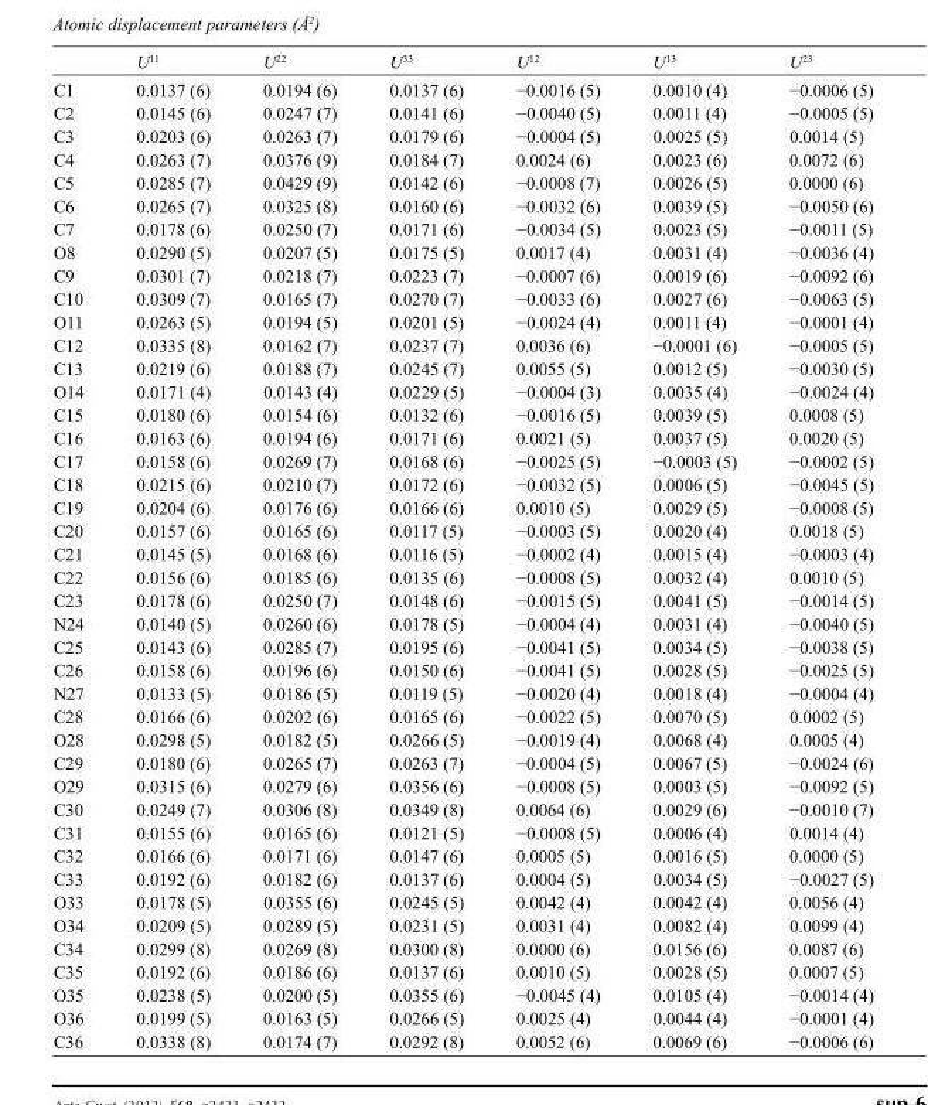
<table><thead><tr><td></td><td>U<sup>11</sup></td><td>U<sup>22</sup></td><td>U<sup>33</sup></td><td>U<sup>12</sup></td><td>U<sup>13</sup></td><td>U<sup>23</sup></td></tr></thead><tbody><tr><td>C1</td><td>0.0137 (6)</td><td>0.0194 (6)</td><td>0.0137 (6)</td><td>−0.0016 (5)</td><td>0.0010 (4)</td><td>−0.0006 (5)</td></tr><tr><td>C2</td><td>0.0145 (6)</td><td>0.0247 (7)</td><td>0.0141 (6)</td><td>−0.0040 (5)</td><td>0.0011 (4)</td><td>−0.0005 (5)</td></tr><tr><td>C3</td><td>0.0203 (6)</td><td>0.0263 (7)</td><td>0.0179 (6)</td><td>−0.0004 (5)</td><td>0.0025 (5)</td><td>0.0014 (5)</td></tr><tr><td>C4</td><td>0.0263 (7)</td><td>0.0376 (9)</td><td>0.0184 (7)</td><td>0.0024 (6)</td><td>0.0023 (6)</td><td>0.0072 (6)</td></tr><tr><td>C5</td><td>0.0285 (7)</td><td>0.0429 (9)</td><td>0.0142 (6)</td><td>−0.0008 (7)</td><td>0.0026 (5)</td><td>0.0000 (6)</td></tr><tr><td>C6</td><td>0.0265 (7)</td><td>0.0325 (8)</td><td>0.0160 (6)</td><td>−0.0032 (6)</td><td>0.0039 (5)</td><td>−0.0050 (6)</td></tr><tr><td>C7</td><td>0.0178 (6)</td><td>0.0250 (7)</td><td>0.0171 (6)</td><td>−0.0034 (5)</td><td>0.0023 (5)</td><td>−0.0011 (5)</td></tr><tr><td>O8</td><td>0.0290 (5)</td><td>0.0207 (5)</td><td>0.0175 (5)</td><td>0.0017 (4)</td><td>0.0031 (4)</td><td>−0.0036 (4)</td></tr><tr><td>C9</td><td>0.0301 (7)</td><td>0.0218 (7)</td><td>0.0223 (7)</td><td>−0.0007 (6)</td><td>0.0019 (6)</td><td>−0.0092 (6)</td></tr><tr><td>C10</td><td>0.0309 (7)</td><td>0.0165 (7)</td><td>0.0270 (7)</td><td>−0.0033 (6)</td><td>0.0027 (6)</td><td>−0.0063 (5)</td></tr><tr><td>O11</td><td>0.0263 (5)</td><td>0.0194 (5)</td><td>0.0201 (5)</td><td>−0.0024 (4)</td><td>0.0011 (4)</td><td>−0.0001 (4)</td></tr><tr><td>C12</td><td>0.0335 (8)</td><td>0.0162 (7)</td><td>0.0237 (7)</td><td>0.0036 (6)</td><td>−0.0001 (6)</td><td>−0.0005 (5)</td></tr><tr><td>C13</td><td>0.0219 (6)</td><td>0.0188 (7)</td><td>0.0245 (7)</td><td>0.0055 (5)</td><td>0.0012 (5)</td><td>−0.0030 (5)</td></tr><tr><td>O14</td><td>0.0171 (4)</td><td>0.0143 (4)</td><td>0.0229 (5)</td><td>−0.0004 (3)</td><td>0.0035 (4)</td><td>−0.0024 (4)</td></tr><tr><td>C15</td><td>0.0180 (6)</td><td>0.0154 (6)</td><td>0.0132 (6)</td><td>−0.0016 (5)</td><td>0.0039 (5)</td><td>0.0008 (5)</td></tr><tr><td>C16</td><td>0.0163 (6)</td><td>0.0194 (6)</td><td>0.0171 (6)</td><td>0.0021 (5)</td><td>0.0037 (5)</td><td>0.0020 (5)</td></tr><tr><td>C17</td><td>0.0158 (6)</td><td>0.0269 (7)</td><td>0.0168 (6)</td><td>−0.0025 (5)</td><td>−0.0003 (5)</td><td>−0.0002 (5)</td></tr><tr><td>C18</td><td>0.0215 (6)</td><td>0.0210 (7)</td><td>0.0172 (6)</td><td>−0.0032 (5)</td><td>0.0006 (5)</td><td>−0.0045 (5)</td></tr><tr><td>C19</td><td>0.0204 (6)</td><td>0.0176 (6)</td><td>0.0166 (6)</td><td>0.0010 (5)</td><td>0.0029 (5)</td><td>−0.0008 (5)</td></tr><tr><td>C20</td><td>0.0157 (6)</td><td>0.0165 (6)</td><td>0.0117 (5)</td><td>−0.0003 (5)</td><td>0.0020 (4)</td><td>0.0018 (5)</td></tr><tr><td>C21</td><td>0.0145 (5)</td><td>0.0168 (6)</td><td>0.0116 (5)</td><td>−0.0002 (4)</td><td>0.0015 (4)</td><td>−0.0003 (4)</td></tr><tr><td>C22</td><td>0.0156 (6)</td><td>0.0185 (6)</td><td>0.0135 (6)</td><td>−0.0008 (5)</td><td>0.0032 (4)</td><td>0.0010 (5)</td></tr><tr><td>C23</td><td>0.0178 (6)</td><td>0.0250 (7)</td><td>0.0148 (6)</td><td>−0.0015 (5)</td><td>0.0041 (5)</td><td>−0.0014 (5)</td></tr><tr><td>N24</td><td>0.0140 (5)</td><td>0.0260 (6)</td><td>0.0178 (5)</td><td>−0.0004 (4)</td><td>0.0031 (4)</td><td>−0.0040 (5)</td></tr><tr><td>C25</td><td>0.0143 (6)</td><td>0.0285 (7)</td><td>0.0195 (6)</td><td>−0.0041 (5)</td><td>0.0034 (5)</td><td>−0.0038 (5)</td></tr><tr><td>C26</td><td>0.0158 (6)</td><td>0.0196 (6)</td><td>0.0150 (6)</td><td>−0.0041 (5)</td><td>0.0028 (5)</td><td>−0.0025 (5)</td></tr><tr><td>N27</td><td>0.0133 (5)</td><td>0.0186 (5)</td><td>0.0119 (5)</td><td>−0.0020 (4)</td><td>0.0018 (4)</td><td>−0.0004 (4)</td></tr><tr><td>C28</td><td>0.0166 (6)</td><td>0.0202 (6)</td><td>0.0165 (6)</td><td>−0.0022 (5)</td><td>0.0070 (5)</td><td>0.0002 (5)</td></tr><tr><td>O28</td><td>0.0298 (5)</td><td>0.0182 (5)</td><td>0.0266 (5)</td><td>−0.0019 (4)</td><td>0.0068 (4)</td><td>0.0005 (4)</td></tr><tr><td>C29</td><td>0.0180 (6)</td><td>0.0265 (7)</td><td>0.0263 (7)</td><td>−0.0004 (5)</td><td>0.0067 (5)</td><td>−0.0024 (6)</td></tr><tr><td>O29</td><td>0.0315 (6)</td><td>0.0279 (6)</td><td>0.0356 (6)</td><td>−0.0008 (5)</td><td>0.0003 (5)</td><td>−0.0092 (5)</td></tr><tr><td>C30</td><td>0.0249 (7)</td><td>0.0306 (8)</td><td>0.0349 (8)</td><td>0.0064 (6)</td><td>0.0029 (6)</td><td>−0.0010 (7)</td></tr><tr><td>C31</td><td>0.0155 (6)</td><td>0.0165 (6)</td><td>0.0121 (5)</td><td>−0.0008 (5)</td><td>0.0006 (4)</td><td>0.0014 (4)</td></tr><tr><td>C32</td><td>0.0166 (6)</td><td>0.0171 (6)</td><td>0.0147 (6)</td><td>0.0005 (5)</td><td>0.0016 (5)</td><td>0.0000 (5)</td></tr><tr><td>C33</td><td>0.0192 (6)</td><td>0.0182 (6)</td><td>0.0137 (6)</td><td>0.0004 (5)</td><td>0.0034 (5)</td><td>−0.0027 (5)</td></tr><tr><td>O33</td><td>0.0178 (5)</td><td>0.0355 (6)</td><td>0.0245 (5)</td><td>0.0042 (4)</td><td>0.0042 (4)</td><td>0.0056 (4)</td></tr><tr><td>O34</td><td>0.0209 (5)</td><td>0.0289 (5)</td><td>0.0231 (5)</td><td>0.0031 (4)</td><td>0.0082 (4)</td><td>0.0099 (4)</td></tr><tr><td>C34</td><td>0.0299 (8)</td><td>0.0269 (8)</td><td>0.0300 (8)</td><td>0.0000 (6)</td><td>0.0156 (6)</td><td>0.0087 (6)</td></tr><tr><td>C35</td><td>0.0192 (6)</td><td>0.0186 (6)</td><td>0.0137 (6)</td><td>0.0010 (5)</td><td>0.0028 (5)</td><td>0.0007 (5)</td></tr><tr><td>O35</td><td>0.0238 (5)</td><td>0.0200 (5)</td><td>0.0355 (6)</td><td>−0.0045 (4)</td><td>0.0105 (4)</td><td>−0.0014 (4)</td></tr><tr><td>O36</td><td>0.0199 (5)</td><td>0.0163 (5)</td><td>0.0266 (5)</td><td>0.0025 (4)</td><td>0.0044 (4)</td><td>−0.0001 (4)</td></tr><tr><td>C36</td><td>0.0338 (8)</td><td>0.0174 (7)</td><td>0.0292 (8)</td><td>0.0052 (6)</td><td>0.0069 (6)</td><td>−0.0006 (6)</td></tr></tbody></table>